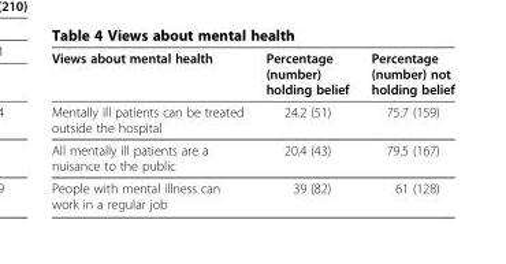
<table><thead><tr><td>Views about mental health</td><td>Percentage (number) holding belief</td><td>Percentage (number) not holding belief</td></tr></thead><tbody><tr><td>Mentally ill patients can be treated outside the hospital</td><td>24.2 (51)</td><td>75.7 (159)</td></tr><tr><td>All mentally ill patients are a nuisance to the public</td><td>20.4 (43)</td><td>79.5 (167)</td></tr><tr><td>People with mental illness can work in a regular job</td><td>39 (82)</td><td>61 (128)</td></tr></tbody></table>